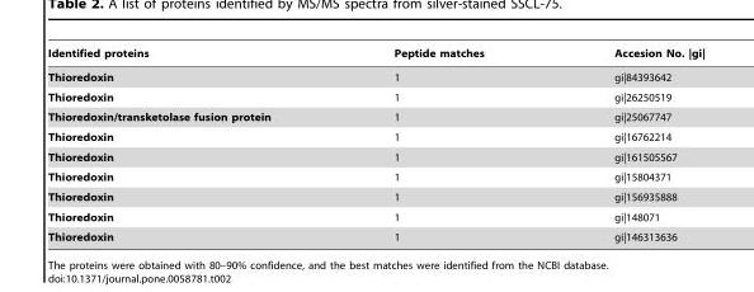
<table><thead><tr><td>Identified proteins</td><td>Peptide matches</td><td>Accesion No. |gi|</td></tr></thead><tbody><tr><td>Thioredoxin</td><td>1</td><td>gi|84393642</td></tr><tr><td>Thioredoxin</td><td>1</td><td>gi|26250519</td></tr><tr><td>Thioredoxin/transketolase fusion protein</td><td>1</td><td>gi|25067747</td></tr><tr><td>Thioredoxin</td><td>1</td><td>gi|16762214</td></tr><tr><td>Thioredoxin</td><td>1</td><td>gi|161505567</td></tr><tr><td>Thioredoxin</td><td>1</td><td>gi|15804371</td></tr><tr><td>Thioredoxin</td><td>1</td><td>gi|156935888</td></tr><tr><td>Thioredoxin</td><td>1</td><td>gi|148071</td></tr><tr><td>Thioredoxin</td><td>1</td><td>gi|146313636</td></tr></tbody></table>